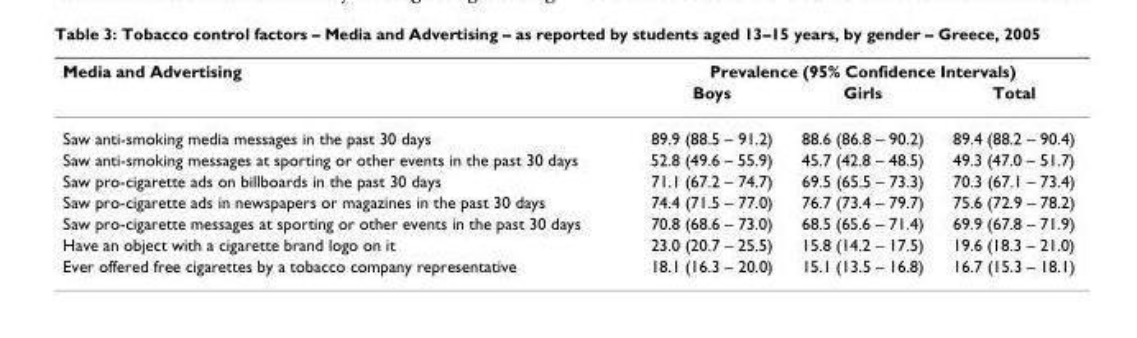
<table><thead><tr><td rowspan="2">Media and Advertising</td><td colspan="3">Prevalence (95% Confidence Intervals)</td></tr><tr><td>Boys</td><td>Girls</td><td>Total</td></tr></thead><tbody><tr><td>Saw anti-smoking media messages in the past 30 days</td><td>89.9 (88.5 – 91.2)</td><td>88.6 (86.8 – 90.2)</td><td>89.4 (88.2 – 90.4)</td></tr><tr><td>Saw anti-smoking messages at sporting or other events in the past 30 days</td><td>52.8 (49.6 – 55.9)</td><td>45.7 (42.8 – 48.5)</td><td>49.3 (47.0 – 51.7)</td></tr><tr><td>Saw pro-cigarette ads on billboards in the past 30 days</td><td>71.1 (67.2 – 74.7)</td><td>69.5 (65.5 – 73.3)</td><td>70.3 (67.1 – 73.4)</td></tr><tr><td>Saw pro-cigarette ads in newspapers or magazines in the past 30 days</td><td>74.4 (71.5 – 77.0)</td><td>76.7 (73.4 – 79.7)</td><td>75.6 (72.9 – 78.2)</td></tr><tr><td>Saw pro-cigarette messages at sporting or other events in the past 30 days</td><td>70.8 (68.6 – 73.0)</td><td>68.5 (65.6 – 71.4)</td><td>69.9 (67.8 – 71.9)</td></tr><tr><td>Have an object with a cigarette brand logo on it</td><td>23.0 (20.7 – 25.5)</td><td>15.8 (14.2 – 17.5)</td><td>19.6 (18.3 – 21.0)</td></tr><tr><td>Ever offered free cigarettes by a tobacco company representative</td><td>18.1 (16.3 – 20.0)</td><td>15.1 (13.5 – 16.8)</td><td>16.7 (15.3 – 18.1)</td></tr></tbody></table>